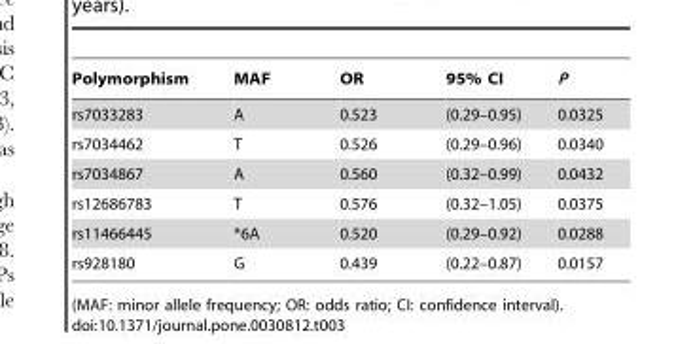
<table><thead><tr><td>Polymorphism</td><td>MAF</td><td>OR</td><td>95% CI</td><td>P</td></tr></thead><tbody><tr><td>rs7033283</td><td>A</td><td>0.523</td><td>(0.29–0.95)</td><td>0.0325</td></tr><tr><td>rs7034462</td><td>T</td><td>0.526</td><td>(0.29–0.96)</td><td>0.0340</td></tr><tr><td>rs7034867</td><td>A</td><td>0.560</td><td>(0.32–0.99)</td><td>0.0432</td></tr><tr><td>rs12686783</td><td>T</td><td>0.576</td><td>(0.32–1.05)</td><td>0.0375</td></tr><tr><td>rs11466445</td><td>*6A</td><td>0.520</td><td>(0.29–0.92)</td><td>0.0288</td></tr><tr><td>rs928180</td><td>G</td><td>0.439</td><td>(0.22–0.87)</td><td>0.0157</td></tr></tbody></table>